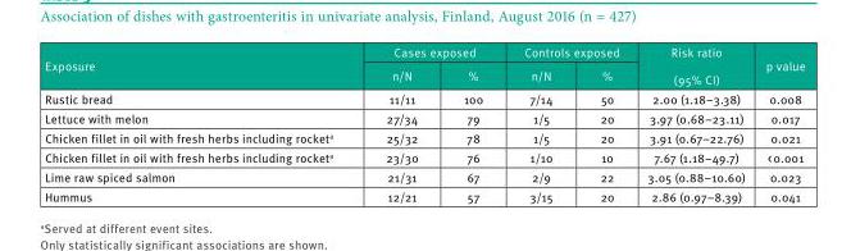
<table><thead><tr><td rowspan="2">Exposure</td><td colspan="2">Cases exposed</td><td colspan="2">Controls exposed</td><td rowspan="2">Risk ratio (95% CI)</td><td rowspan="2">p value</td></tr><tr><td>n/N</td><td>%</td><td>n/N</td><td>%</td></tr></thead><tbody><tr><td>Rustic bread</td><td>11/11</td><td>100</td><td>7/14</td><td>50</td><td>2.00 (1.18–3.38)</td><td>0.008</td></tr><tr><td>Lettuce with melon</td><td>27/34</td><td>79</td><td>1/5</td><td>20</td><td>3.97 (0.68–23.11)</td><td>0.017</td></tr><tr><td>Chicken fillet in oil with fresh herbs including rocket<sup>a</sup></td><td>25/32</td><td>78</td><td>1/5</td><td>20</td><td>3.91 (0.67–22.76)</td><td>0.021</td></tr><tr><td>Chicken fillet in oil with fresh herbs including rocket<sup>a</sup></td><td>23/30</td><td>76</td><td>1/10</td><td>10</td><td>7.67 (1.18–49.7)</td><td>&lt; 0.001</td></tr><tr><td>Lime raw spiced salmon</td><td>21/31</td><td>67</td><td>2/9</td><td>22</td><td>3.05 (0.88–10.60)</td><td>0.023</td></tr><tr><td>Hummus</td><td>12/21</td><td>57</td><td>3/15</td><td>20</td><td>2.86 (0.97–8.39)</td><td>0.041</td></tr></tbody></table>